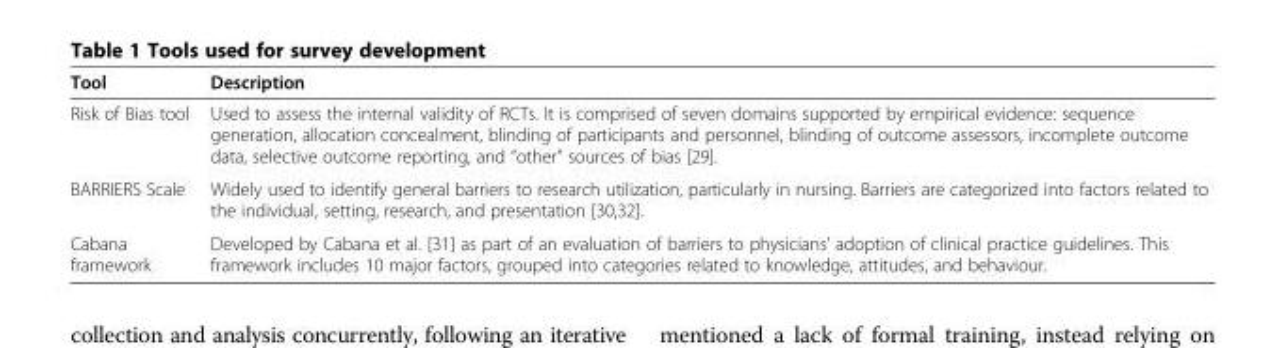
<table><thead><tr><td>Tool</td><td>Description</td></tr></thead><tbody><tr><td>Risk of Bias tool</td><td>Used to assess the internal validity of RCTs. It is comprised of seven domains supported by empirical evidence: sequence generation, allocation concealment, blinding of participants and personnel, blinding of outcome assessors, incomplete outcome data, selective outcome reporting, and “other” sources of bias [29].</td></tr><tr><td>BARRIERS Scale</td><td>Widely used to identify general barriers to research utilization, particularly in nursing. Barriers are categorized into factors related to the individual, setting, research, and presentation [30,32].</td></tr><tr><td>Cabana framework</td><td>Developed by Cabana et al. [31] as part of an evaluation of barriers to physicians’ adoption of clinical practice guidelines. This framework includes 10 major factors, grouped into categories related to knowledge, attitudes, and behaviour.</td></tr></tbody></table>